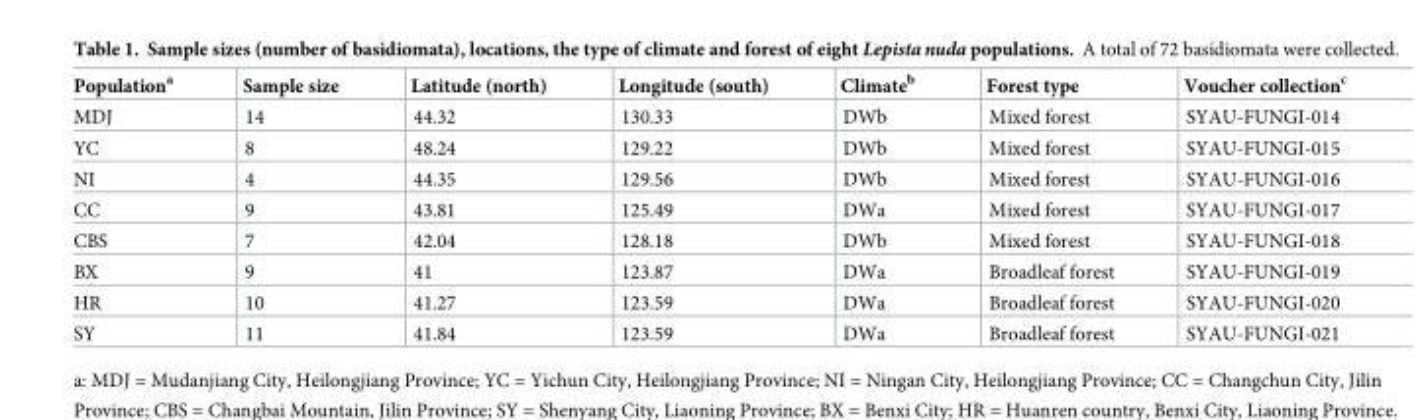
<table><thead><tr><td>Population<sup>a</sup></td><td>Sample size</td><td>Latitude (north)</td><td>Longitude (south)</td><td>Climate<sup>b</sup></td><td>Forest type</td><td>Voucher collection<sup>c</sup></td></tr></thead><tbody><tr><td>MDJ</td><td>14</td><td>44.32</td><td>130.33</td><td>DWb</td><td>Mixed forest</td><td>SYAU-FUNGI-014</td></tr><tr><td>YC</td><td>8</td><td>48.24</td><td>129.22</td><td>DWb</td><td>Mixed forest</td><td>SYAU-FUNGI-015</td></tr><tr><td>NI</td><td>4</td><td>44.35</td><td>129.56</td><td>DWb</td><td>Mixed forest</td><td>SYAU-FUNGI-016</td></tr><tr><td>CC</td><td>9</td><td>43.81</td><td>125.49</td><td>DWa</td><td>Mixed forest</td><td>SYAU-FUNGI-017</td></tr><tr><td>CBS</td><td>7</td><td>42.04</td><td>128.18</td><td>DWb</td><td>Mixed forest</td><td>SYAU-FUNGI-018</td></tr><tr><td>BX</td><td>9</td><td>41</td><td>123.87</td><td>DWa</td><td>Broadleaf forest</td><td>SYAU-FUNGI-019</td></tr><tr><td>HR</td><td>10</td><td>41.27</td><td>123.59</td><td>DWa</td><td>Broadleaf forest</td><td>SYAU-FUNGI-020</td></tr><tr><td>SY</td><td>11</td><td>41.84</td><td>123.59</td><td>DWa</td><td>Broadleaf forest</td><td>SYAU-FUNGI-021</td></tr></tbody></table>